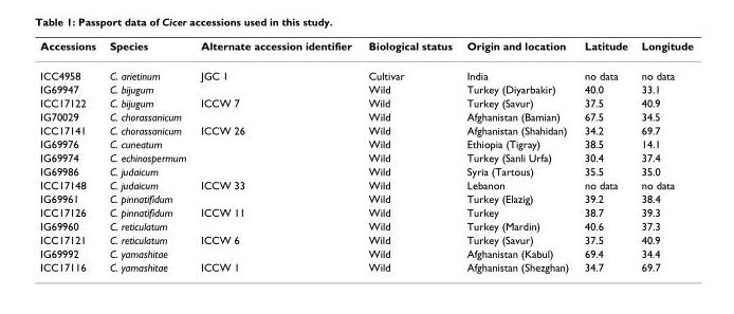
<table><thead><tr><td>Accessions</td><td>Species</td><td>Alternate accession identifier</td><td>Biological status</td><td>Origin and location</td><td>Latitude</td><td>Longitude</td></tr></thead><tbody><tr><td>ICC4958</td><td>C. arietinum</td><td>JGC 1</td><td>Cultivar</td><td>India</td><td>no data</td><td>no data</td></tr><tr><td>IG69947</td><td>C. bijugum</td><td></td><td>Wild</td><td>Turkey (Diyarbakir)</td><td>40.0</td><td>33.1</td></tr><tr><td>ICC17122</td><td>C. bijugum</td><td>ICCW 7</td><td>Wild</td><td>Turkey (Savur)</td><td>37.5</td><td>40.9</td></tr><tr><td>IG70029</td><td>C. chorassanicum</td><td></td><td>Wild</td><td>Afghanistan (Bamian)</td><td>67.5</td><td>34.5</td></tr><tr><td>ICC17141</td><td>C. chorassanicum</td><td>ICCW 26</td><td>Wild</td><td>Afghanistan (Shahidan)</td><td>34.2</td><td>69.7</td></tr><tr><td>IG69976</td><td>C. cuneatum</td><td></td><td>Wild</td><td>Ethiopia (Tigray)</td><td>38.5</td><td>14.1</td></tr><tr><td>IG69974</td><td>C. echinospermum</td><td></td><td>Wild</td><td>Turkey (Sanli Urfa)</td><td>30.4</td><td>37.4</td></tr><tr><td>IG69986</td><td>C. judaicum</td><td></td><td>Wild</td><td>Syria (Tartous)</td><td>35.5</td><td>35.0</td></tr><tr><td>ICC17148</td><td>C. judaicum</td><td>ICCW 33</td><td>Wild</td><td>Lebanon</td><td>no data</td><td>no data</td></tr><tr><td>IG69961</td><td>C. pinnatifidum</td><td></td><td>Wild</td><td>Turkey (Elazig)</td><td>39.2</td><td>38.4</td></tr><tr><td>ICC17126</td><td>C. pinnatifidum</td><td>ICCW 11</td><td>Wild</td><td>Turkey</td><td>38.7</td><td>39.3</td></tr><tr><td>IG69960</td><td>C. reticulatum</td><td></td><td>Wild</td><td>Turkey (Mardin)</td><td>40.6</td><td>37.3</td></tr><tr><td>ICC17121</td><td>C. reticulatum</td><td>ICCW 6</td><td>Wild</td><td>Turkey (Savur)</td><td>37.5</td><td>40.9</td></tr><tr><td>IG69992</td><td>C. yamashitae</td><td></td><td>Wild</td><td>Afghanistan (Kabul)</td><td>69.4</td><td>34.4</td></tr><tr><td>ICC17116</td><td>C. yamashitae</td><td>ICCW 1</td><td>Wild</td><td>Afghanistan (Shezghan)</td><td>34.7</td><td>69.7</td></tr></tbody></table>